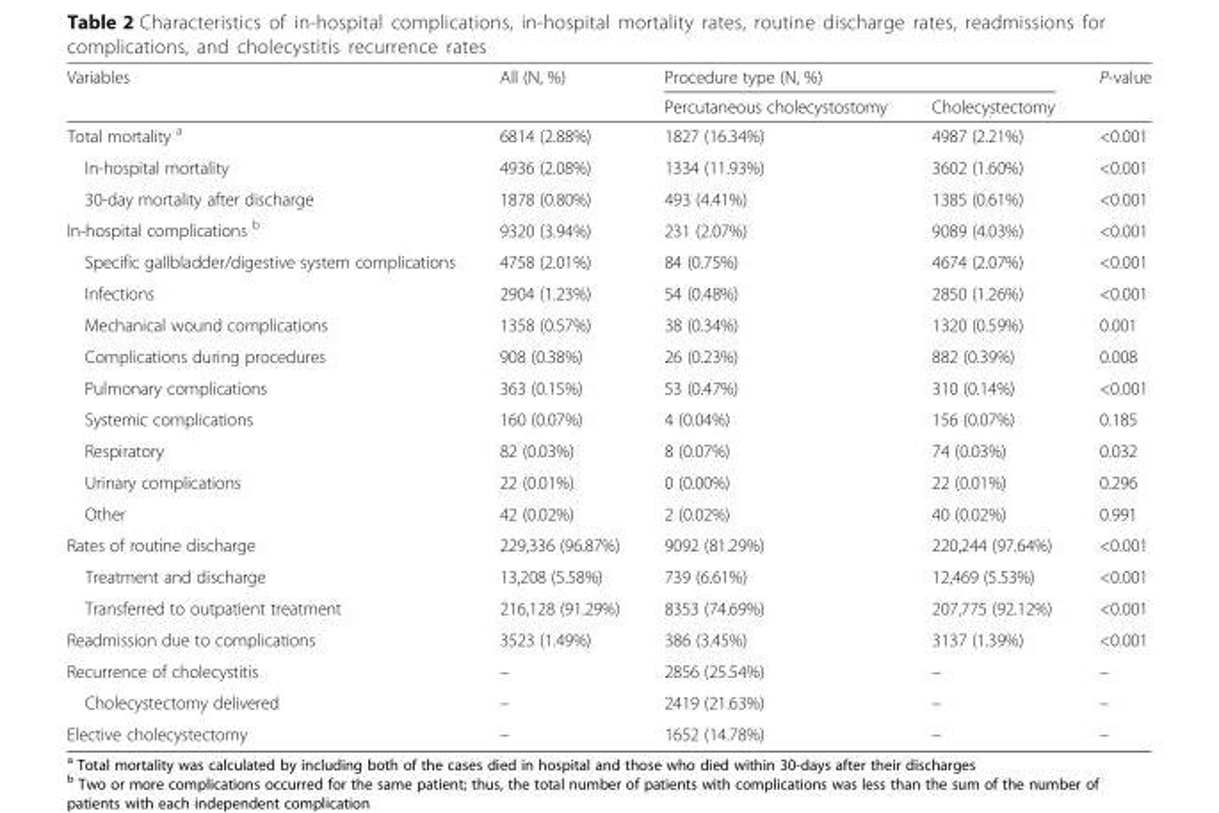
<table><thead><tr><td rowspan="2">Variables</td><td rowspan="2">All (N, %)</td><td colspan="2">Procedure type (N, %)</td><td rowspan="2">P-value</td></tr><tr><td>Percutaneous cholecystostomy</td><td>Cholecystectomy</td></tr></thead><tbody><tr><td>Total mortality <sup>a</sup></td><td>6814 (2.88%)</td><td>1827 (16.34%)</td><td>4987 (2.21%)</td><td>&lt;0.001</td></tr><tr><td>In-hospital mortality</td><td>4936 (2.08%)</td><td>1334 (11.93%)</td><td>3602 (1.60%)</td><td>&lt;0.001</td></tr><tr><td>30-day mortality after discharge</td><td>1878 (0.80%)</td><td>493 (4.41%)</td><td>1385 (0.61%)</td><td>&lt;0.001</td></tr><tr><td>In-hospital complications <sup>b</sup></td><td>9320 (3.94%)</td><td>231 (2.07%)</td><td>9089 (4.03%)</td><td>&lt;0.001</td></tr><tr><td>Specific gallbladder/digestive system complications</td><td>4758 (2.01%)</td><td>84 (0.75%)</td><td>4674 (2.07%)</td><td>&lt;0.001</td></tr><tr><td>Infections</td><td>2904 (1.23%)</td><td>54 (0.48%)</td><td>2850 (1.26%)</td><td>&lt;0.001</td></tr><tr><td>Mechanical wound complications</td><td>1358 (0.57%)</td><td>38 (0.34%)</td><td>1320 (0.59%)</td><td>0.001</td></tr><tr><td>Complications during procedures</td><td>908 (0.38%)</td><td>26 (0.23%)</td><td>882 (0.39%)</td><td>0.008</td></tr><tr><td>Pulmonary complications</td><td>363 (0.15%)</td><td>53 (0.47%)</td><td>310 (0.14%)</td><td>&lt;0.001</td></tr><tr><td>Systemic complications</td><td>160 (0.07%)</td><td>4 (0.04%)</td><td>156 (0.07%)</td><td>0.185</td></tr><tr><td>Respiratory</td><td>82 (0.03%)</td><td>8 (0.07%)</td><td>74 (0.03%)</td><td>0.032</td></tr><tr><td>Urinary complications</td><td>22 (0.01%)</td><td>0 (0.00%)</td><td>22 (0.01%)</td><td>0.296</td></tr><tr><td>Other</td><td>42 (0.02%)</td><td>2 (0.02%)</td><td>40 (0.02%)</td><td>0.991</td></tr><tr><td>Rates of routine discharge</td><td>229,336 (96.87%)</td><td>9092 (81.29%)</td><td>220,244 (97.64%)</td><td>&lt;0.001</td></tr><tr><td>Treatment and discharge</td><td>13,208 (5.58%)</td><td>739 (6.61%)</td><td>12,469 (5.53%)</td><td>&lt;0.001</td></tr><tr><td>Transferred to outpatient treatment</td><td>216,128 (91.29%)</td><td>8353 (74.69%)</td><td>207,775 (92.12%)</td><td>&lt;0.001</td></tr><tr><td>Readmission due to complications</td><td>3523 (1.49%)</td><td>386 (3.45%)</td><td>3137 (1.39%)</td><td>&lt;0.001</td></tr><tr><td>Recurrence of cholecystitis</td><td>–</td><td>2856 (25.54%)</td><td>–</td><td>–</td></tr><tr><td>Cholecystectomy delivered</td><td>–</td><td>2419 (21.63%)</td><td>–</td><td>–</td></tr><tr><td>Elective cholecystectomy</td><td>–</td><td>1652 (14.78%)</td><td>–</td><td>–</td></tr></tbody></table>